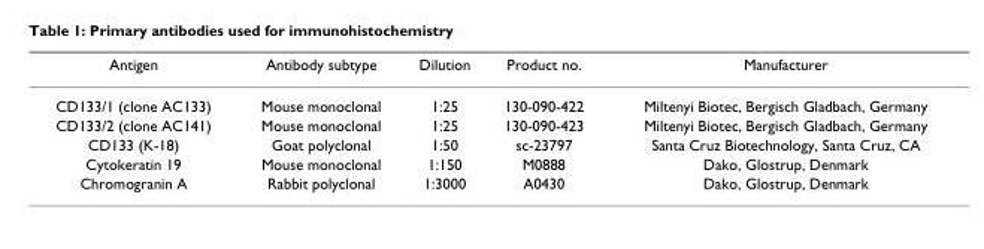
<table><thead><tr><td>Antigen</td><td>Antibody subtype</td><td>Dilution</td><td>Product no.</td><td>Manufacturer</td></tr></thead><tbody><tr><td>CD133/1 (clone AC133)</td><td>Mouse monoclonal</td><td>1:25</td><td>130-090-422</td><td>Miltenyi Biotec, Bergisch Gladbach, Germany</td></tr><tr><td>CD133/2 (clone AC141)</td><td>Mouse monoclonal</td><td>1:25</td><td>130-090-423</td><td>Miltenyi Biotec, Bergisch Gladbach, Germany</td></tr><tr><td>CD133 (K-18)</td><td>Goat polyclonal</td><td>1:50</td><td>sc-23797</td><td>Santa Cruz Biotechnology, Santa Cruz, CA</td></tr><tr><td>Cytokeratin 19</td><td>Mouse monoclonal</td><td>1:150</td><td>M0888</td><td>Dako, Glostrup, Denmark</td></tr><tr><td>Chromogranin A</td><td>Rabbit polyclonal</td><td>1:3000</td><td>A0430</td><td>Dako, Glostrup, Denmark</td></tr></tbody></table>